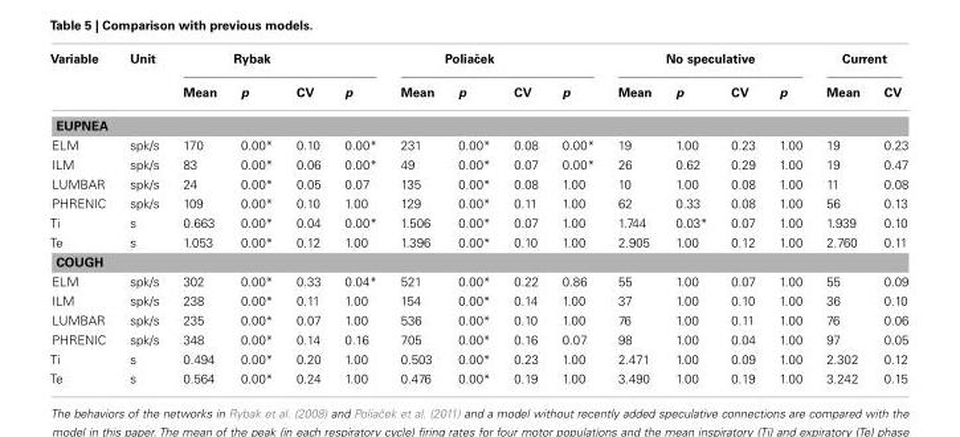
<table><thead><tr><td rowspan="2">Variable</td><td rowspan="2">Unit</td><td colspan="3">Rybak</td><td colspan="5">Poliaˇcek</td><td colspan="4">No speculative</td><td colspan="2">Current</td></tr><tr><td>Mean</td><td>p</td><td>CV</td><td>p</td><td>Mean</td><td>p</td><td>CV</td><td>p</td><td>Mean</td><td>p</td><td>CV</td><td>p</td><td>Mean</td><td>CV</td></tr></thead><tbody><tr><td colspan="16">EUPNEA</td></tr><tr><td>ELM</td><td>spk/s</td><td>170</td><td>0.00*</td><td>0.10</td><td>0.00*</td><td>231</td><td>0.00*</td><td>0.08</td><td>0.00*</td><td>19</td><td>1.00</td><td>0.23</td><td>1.00</td><td>19</td><td>0.23</td></tr><tr><td>ILM</td><td>spk/s</td><td>83</td><td>0.00*</td><td>0.06</td><td>0.00*</td><td>49</td><td>0.00*</td><td>0.07</td><td>0.00*</td><td>26</td><td>0.62</td><td>0.29</td><td>1.00</td><td>19</td><td>0.47</td></tr><tr><td>LUMBAR</td><td>spk/s</td><td>24</td><td>0.00*</td><td>0.05</td><td>0.07</td><td>135</td><td>0.00*</td><td>0.08</td><td>1.00</td><td>10</td><td>1.00</td><td>0.08</td><td>1.00</td><td>11</td><td>0.08</td></tr><tr><td>PHRENIC</td><td>spk/s</td><td>109</td><td>0.00*</td><td>0.10</td><td>1.00</td><td>129</td><td>0.00*</td><td>0.11</td><td>1.00</td><td>62</td><td>0.33</td><td>0.08</td><td>1.00</td><td>56</td><td>0.13</td></tr><tr><td>Ti</td><td>s</td><td>0.663</td><td>0.00*</td><td>0.04</td><td>0.00*</td><td>1.506</td><td>0.00*</td><td>0.07</td><td>1.00</td><td>1.744</td><td>0.03*</td><td>0.07</td><td>1.00</td><td>1.939</td><td>0.10</td></tr><tr><td>Te</td><td>s</td><td>1.053</td><td>0.00*</td><td>0.12</td><td>1.00</td><td>1.396</td><td>0.00*</td><td>0.10</td><td>1.00</td><td>2.905</td><td>1.00</td><td>0.12</td><td>1.00</td><td>2.760</td><td>0.11</td></tr><tr><td colspan="16">COUGH</td></tr><tr><td>ELM</td><td>spk/s</td><td>302</td><td>0.00*</td><td>0.33</td><td>0.04*</td><td>521</td><td>0.00*</td><td>0.22</td><td>0.86</td><td>55</td><td>1.00</td><td>0.07</td><td>1.00</td><td>55</td><td>0.09</td></tr><tr><td>ILM</td><td>spk/s</td><td>238</td><td>0.00*</td><td>0.11</td><td>1.00</td><td>154</td><td>0.00*</td><td>0.14</td><td>1.00</td><td>37</td><td>1.00</td><td>0.10</td><td>1.00</td><td>36</td><td>0.10</td></tr><tr><td>LUMBAR</td><td>spk/s</td><td>235</td><td>0.00*</td><td>0.07</td><td>1.00</td><td>536</td><td>0.00*</td><td>0.10</td><td>1.00</td><td>76</td><td>1.00</td><td>0.11</td><td>1.00</td><td>76</td><td>0.06</td></tr><tr><td>PHRENIC</td><td>spk/s</td><td>348</td><td>0.00*</td><td>0.14</td><td>0.16</td><td>705</td><td>0.00*</td><td>0.16</td><td>0.07</td><td>98</td><td>1.00</td><td>0.04</td><td>1.00</td><td>97</td><td>0.05</td></tr><tr><td>Ti</td><td>s</td><td>0.494</td><td>0.00*</td><td>0.20</td><td>1.00</td><td>0.503</td><td>0.00*</td><td>0.23</td><td>1.00</td><td>2.471</td><td>1.00</td><td>0.09</td><td>1.00</td><td>2.302</td><td>0.12</td></tr><tr><td>Te</td><td>s</td><td>0.564</td><td>0.00*</td><td>0.24</td><td>1.00</td><td>0.476</td><td>0.00*</td><td>0.19</td><td>1.00</td><td>3.490</td><td>1.00</td><td>0.19</td><td>1.00</td><td>3.242</td><td>0.15</td></tr></tbody></table>